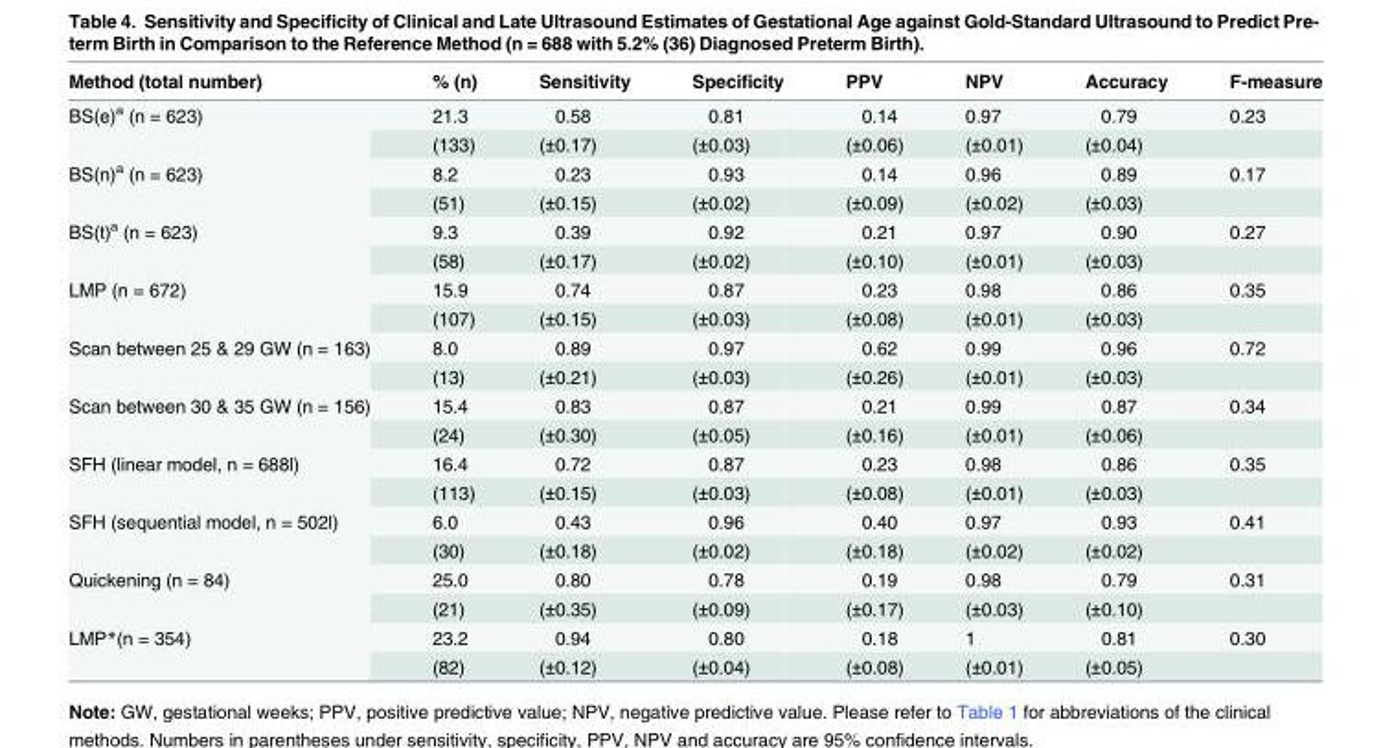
<table><thead><tr><td>Method (total number)</td><td>% (n)</td><td>Sensitivity</td><td>Specificity</td><td>PPV</td><td>NPV</td><td>Accuracy</td><td>F-measure</td></tr></thead><tbody><tr><td rowspan="2">BS(e)<sup>a</sup> (n = 623)</td><td>21.3</td><td>0.58</td><td>0.81</td><td>0.14</td><td>0.97</td><td>0.79</td><td>0.23</td></tr><tr><td>(133)</td><td>(±0.17)</td><td>(±0.03)</td><td>(±0.06)</td><td>(±0.01)</td><td>(±0.04)</td><td></td></tr><tr><td rowspan="2">BS(n)<sup>a</sup> (n = 623)</td><td>8.2</td><td>0.23</td><td>0.93</td><td>0.14</td><td>0.96</td><td>0.89</td><td>0.17</td></tr><tr><td>(51)</td><td>(±0.15)</td><td>(±0.02)</td><td>(±0.09)</td><td>(±0.02)</td><td>(±0.03)</td><td></td></tr><tr><td rowspan="2">BS(t)<sup>a</sup> (n = 623)</td><td>9.3</td><td>0.39</td><td>0.92</td><td>0.21</td><td>0.97</td><td>0.90</td><td>0.27</td></tr><tr><td>(58)</td><td>(±0.17)</td><td>(±0.02)</td><td>(±0.10)</td><td>(±0.01)</td><td>(±0.03)</td><td></td></tr><tr><td rowspan="2">LMP (n = 672)</td><td>15.9</td><td>0.74</td><td>0.87</td><td>0.23</td><td>0.98</td><td>0.86</td><td>0.35</td></tr><tr><td>(107)</td><td>(±0.15)</td><td>(±0.03)</td><td>(±0.08)</td><td>(±0.01)</td><td>(±0.03)</td><td></td></tr><tr><td rowspan="2">Scan between 25 &amp; 29 GW (n = 163)</td><td>8.0</td><td>0.89</td><td>0.97</td><td>0.62</td><td>0.99</td><td>0.96</td><td>0.72</td></tr><tr><td>(13)</td><td>(±0.21)</td><td>(±0.03)</td><td>(±0.26)</td><td>(±0.01)</td><td>(±0.03)</td><td></td></tr><tr><td rowspan="2">Scan between 30 &amp; 35 GW (n = 156)</td><td>15.4</td><td>0.83</td><td>0.87</td><td>0.21</td><td>0.99</td><td>0.87</td><td>0.34</td></tr><tr><td>(24)</td><td>(±0.30)</td><td>(±0.05)</td><td>(±0.16)</td><td>(±0.01)</td><td>(±0.06)</td><td></td></tr><tr><td rowspan="2">SFH (linear model, n = 688l)</td><td>16.4</td><td>0.72</td><td>0.87</td><td>0.23</td><td>0.98</td><td>0.86</td><td>0.35</td></tr><tr><td>(113)</td><td>(±0.15)</td><td>(±0.03)</td><td>(±0.08)</td><td>(±0.01)</td><td>(±0.03)</td><td></td></tr><tr><td rowspan="2">SFH (sequential model, n = 502l)</td><td>6.0</td><td>0.43</td><td>0.96</td><td>0.40</td><td>0.97</td><td>0.93</td><td>0.41</td></tr><tr><td>(30)</td><td>(±0.18)</td><td>(±0.02)</td><td>(±0.18)</td><td>(±0.02)</td><td>(±0.02)</td><td></td></tr><tr><td rowspan="2">Quickening (n = 84)</td><td>25.0</td><td>0.80</td><td>0.78</td><td>0.19</td><td>0.98</td><td>0.79</td><td>0.31</td></tr><tr><td>(21)</td><td>(±0.35)</td><td>(±0.09)</td><td>(±0.17)</td><td>(±0.03)</td><td>(±0.10)</td><td></td></tr><tr><td rowspan="2">LMP*(n = 354)</td><td>23.2</td><td>0.94</td><td>0.80</td><td>0.18</td><td>1</td><td>0.81</td><td>0.30</td></tr><tr><td>(82)</td><td>(±0.12)</td><td>(±0.04)</td><td>(±0.08)</td><td>(±0.01)</td><td>(±0.05)</td><td></td></tr></tbody></table>